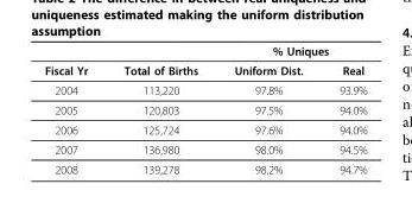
<table><thead><tr><td rowspan="2">Fiscal Yr</td><td rowspan="2">Total of Births</td><td colspan="2">% Uniques</td></tr><tr><td>Uniform Dist.</td><td>Real</td></tr></thead><tbody><tr><td>2004</td><td>113,220</td><td>97.8%</td><td>93.9%</td></tr><tr><td>2005</td><td>120,803</td><td>97.5%</td><td>94.0%</td></tr><tr><td>2006</td><td>125,724</td><td>97.6%</td><td>94.0%</td></tr><tr><td>2007</td><td>136,980</td><td>98.0%</td><td>94.5%</td></tr><tr><td>2008</td><td>139,278</td><td>98.2%</td><td>94.7%</td></tr></tbody></table>